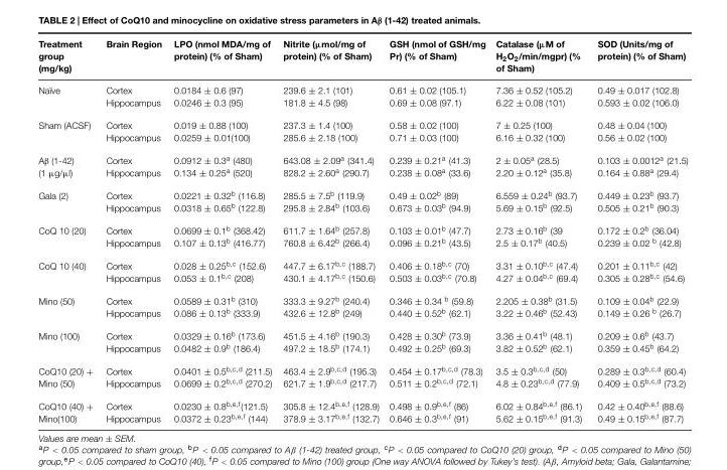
<table><thead><tr><td>Treatment group (mg/kg)</td><td>Brain Region</td><td>LPO (nmol MDA/mg of protein) (% of Sham)</td><td>Nitrite (μmol/mg of protein) (% of Sham)</td><td>GSH (nmol of GSH/mg Pr) (% of Sham)</td><td>Catalase (μM of H<sub>2</sub>O<sub>2</sub>/min/mgpr) (% of Sham)</td><td>SOD (Units/mg of protein) (% of Sham)</td></tr></thead><tbody><tr><td>Naïve</td><td>Cortex Hippocampus</td><td>0.0184 ± 0.6 (97) 0.0246 ± 0.3 (95)</td><td>239.6 ± 2.1 (101) 181.8 ± 4.5 (98)</td><td>0.61 ± 0.02 (105.1) 0.69 ± 0.08 (97.1)</td><td>7.36 ± 0.52 (105.2) 6.22 ± 0.08 (101)</td><td>0.49 ± 0.017 (102.8) 0.593 ± 0.02 (106.0)</td></tr><tr><td>Sham (ACSF)</td><td>Cortex Hippocampus</td><td>0.019 ± 0.88 (100) 0.0259 ± 0.01(100)</td><td>237.3 ± 1.4 (100) 285.6 ± 2.18 (100)</td><td>0.58 ± 0.02 (100) 0.71 ± 0.03 (100)</td><td>7 ± 0.25 (100) 6.16 ± 0.32 (100)</td><td>0.48 ± 0.04 (100) 0.56 ± 0.02 (100)</td></tr><tr><td>Aβ (1-42) (1 μg/μl)</td><td>Cortex Hippocampus</td><td>0.0912 ± 0.3<sup>a</sup> (480) 0.134 ± 0.25<sup>a</sup> (520)</td><td>643.08 ± 2.09<sup>a</sup> (341.4) 828.2 ± 2.60<sup>a</sup> (290.7)</td><td>0.239 ± 0.21<sup>a</sup> (41.3) 0.238 ± 0.08<sup>a</sup> (33.6)</td><td>2 ± 0.05<sup>a</sup> (28.5) 2.20 ± 0.12<sup>a</sup> (35.8)</td><td>0.103 ± 0.0012<sup>a</sup> (21.5) 0.164 ± 0.88<sup>a</sup> (29.4)</td></tr><tr><td>Gala (2)</td><td>Cortex Hippocampus</td><td>0.0221 ± 0.32<sup>b</sup> (116.8) 0.0318 ± 0.65<sup>b</sup> (122.8)</td><td>285.5 ± 7.5<sup>b</sup> (119.9) 295.8 ± 2.84<sup>b</sup> (103.6)</td><td>0.49 ± 0.02<sup>b</sup> (89) 0.673 ± 0.03<sup>b</sup> (94.9)</td><td>6.559 ± 0.24<sup>b</sup> (93.7) 5.69 ± 0.15<sup>b</sup> (92.5)</td><td>0.449 ± 0.23<sup>b</sup> (93.7) 0.505 ± 0.21<sup>b</sup> (90.3)</td></tr><tr><td>CoQ 10 (20)</td><td>Cortex Hippocampus</td><td>0.0699 ± 0.1<sup>b</sup> (368.42) 0.107 ± 0.13<sup>b</sup> (416.77)</td><td>611.7 ± 1.64<sup>b</sup> (257.8) 760.8 ± 6.42<sup>b</sup> (266.4)</td><td>0.103 ± 0.01<sup>b</sup> (47.7) 0.096 ± 0.21<sup>b</sup> (43.5)</td><td>2.73 ± 0.16<sup>b</sup> (39 2.5 ± 0.17<sup>b</sup> (40.5)</td><td>0.172 ± 0.2<sup>b</sup> (36.04) 0.239 ± 0.02 <sup>b</sup> (42.8)</td></tr><tr><td>CoQ 10 (40)</td><td>Cortex Hippocampus</td><td>0.028 ± 0.25<sup>b,c</sup> (152.6) 0.053 ± 0.1<sup>b,c</sup> (208)</td><td>447.7 ± 6.17<sup>b,c</sup> (188.7) 430.1 ± 4.17<sup>b,c</sup> (150.6)</td><td>0.406 ± 0.18<sup>b,c</sup> (70) 0.503 ± 0.03<sup>b,c</sup> (70.8)</td><td>3.31 ± 0.10<sup>b,c</sup> (47.4) 4.27 ± 0.04<sup>b,c</sup> (69.4)</td><td>0.201 ± 0.11<sup>b,c</sup> (42) 0.305 ± 0.28<sup>b,c</sup> (54.6)</td></tr><tr><td>Mino (50)</td><td>Cortex Hippocampus</td><td>0.0589 ± 0.31<sup>b</sup> (310) 0.086 ± 0.13<sup>b</sup> (333.9)</td><td>333.3 ± 9.27<sup>b</sup> (240.4) 432.6 ± 12.8<sup>b</sup> (249)</td><td>0.346 ± 0.34 <sup>b</sup> (59.8) 0.440 ± 0.52<sup>b</sup> (62.1)</td><td>2.205 ± 0.38<sup>b</sup> (31.5) 3.22 ± 0.46<sup>b</sup> (52.43)</td><td>0.109 ± 0.04<sup>b</sup> (22.9) 0.149 ± 0.26 <sup>b</sup> (26.7)</td></tr><tr><td>Mino (100)</td><td>Cortex Hippocampus</td><td>0.0329 ± 0.16<sup>b</sup> (173.6) 0.0482 ± 0.9<sup>b</sup> (186.4)</td><td>451.5 ± 4.16<sup>b</sup> (190.3) 497.2 ± 18.5<sup>b</sup> (174.1)</td><td>0.428 ± 0.30<sup>b</sup> (73.9) 0.492 ± 0.25<sup>b</sup> (69.3)</td><td>3.36 ± 0.41<sup>b</sup> (48.1) 3.82 ± 0.52<sup>b</sup> (62.1)</td><td>0.209 ± 0.6<sup>b</sup> (43.7) 0.359 ± 0.45<sup>b</sup> (64.2)</td></tr><tr><td>CoQ10 (20) + Mino (50)</td><td>Cortex Hippocampus</td><td>0.0401 ± 0.5<sup>b,c,d</sup> (211.5) 0.0699 ± 0.2<sup>b,c,d</sup> (270.2)</td><td>463.4 ± 2.9<sup>b,c,d</sup> (195.3) 621.7 ± 1.9<sup>b,c,d</sup> (217.7)</td><td>0.454 ± 0.17<sup>b,c,d</sup> (78.3) 0.511 ± 0.2<sup>b,c,d</sup> (72.1)</td><td>3.5 ± 0.3<sup>b,c,d</sup> (50) 4.8 ± 0.23<sup>b,c,d</sup> (77.9)</td><td>0.289 ± 0.3<sup>b,c,d</sup> (60.4) 0.409 ± 0.5<sup>b,c,d</sup> (73.2)</td></tr><tr><td>CoQ10 (40) + Mino(100)</td><td>Cortex Hippocampus</td><td>0.0230 ± 0.8<sup>b,e,f</sup>(121.5) 0.0372 ± 0.23<sup>b,e,f</sup> (144)</td><td>305.8 ± 12.4<sup>b,e,f</sup> (128.9) 378.9 ± 3.17<sup>b,e,f</sup> (132.7)</td><td>0.498 ± 0.9<sup>b,e,f</sup> (86) 0.646 ± 0.3<sup>b,e,f</sup> (91)</td><td>6.02 ± 0.84<sup>b,e,f</sup> (86.1) 5.62 ± 0.15<sup>b,e,f</sup> (91.3)</td><td>0.42 ± 0.40<sup>b,e,f</sup> (88.6) 0.49 ± 0.15<sup>b,e,f</sup> (87.7)</td></tr></tbody></table>